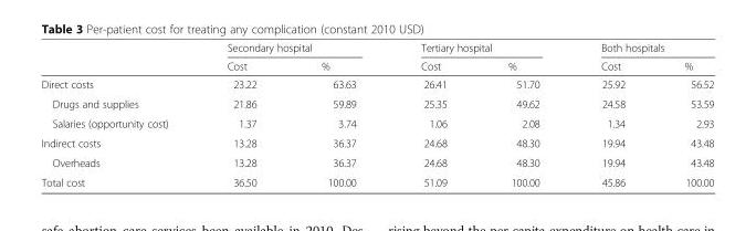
<table><thead><tr><td rowspan="2"></td><td colspan="2">Secondary hospital</td><td colspan="2">Tertiary hospital</td><td colspan="2">Both hospitals</td></tr><tr><td>Cost</td><td>%</td><td>Cost</td><td>%</td><td>Cost</td><td>%</td></tr></thead><tbody><tr><td>Direct costs</td><td>23.22</td><td>63.63</td><td>26.41</td><td>51.70</td><td>25.92</td><td>56.52</td></tr><tr><td>Drugs and supplies</td><td>21.86</td><td>59.89</td><td>25.35</td><td>49.62</td><td>24.58</td><td>53.59</td></tr><tr><td>Salaries (opportunity cost)</td><td>1.37</td><td>3.74</td><td>1.06</td><td>2.08</td><td>1.34</td><td>2.93</td></tr><tr><td>Indirect costs</td><td>13.28</td><td>36.37</td><td>24.68</td><td>48.30</td><td>19.94</td><td>43.48</td></tr><tr><td>Overheads</td><td>13.28</td><td>36.37</td><td>24.68</td><td>48.30</td><td>19.94</td><td>43.48</td></tr><tr><td>Total cost</td><td>36.50</td><td>100.00</td><td>51.09</td><td>100.00</td><td>45.86</td><td>100.00</td></tr></tbody></table>